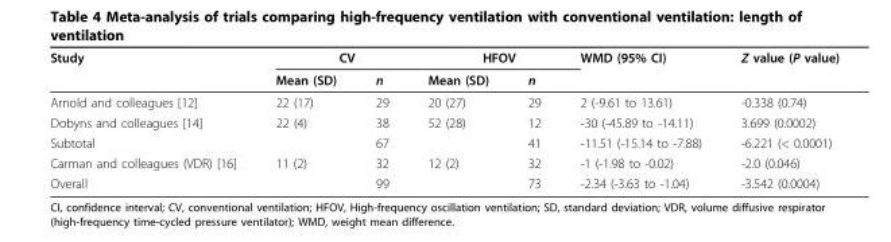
<table><thead><tr><td rowspan="2">Study</td><td colspan="2">CV</td><td colspan="2">HFOV</td><td rowspan="2">WMD (95% CI)</td><td rowspan="2">Z value (P value)</td></tr><tr><td>Mean (SD)</td><td>n</td><td>Mean (SD)</td><td>n</td></tr></thead><tbody><tr><td>Arnold and colleagues [12]</td><td>22 (17)</td><td>29</td><td>20 (27)</td><td>29</td><td>2 (-9.61 to 13.61)</td><td>-0.338 (0.74)</td></tr><tr><td>Dobyns and colleagues [14]</td><td>22 (4)</td><td>38</td><td>52 (28)</td><td>12</td><td>-30 (-45.89 to -14.11)</td><td>3.699 (0.0002)</td></tr><tr><td>Subtotal</td><td></td><td>67</td><td></td><td>41</td><td>-11.51 (-15.14 to -7.88)</td><td>-6.221 (&lt; 0.0001)</td></tr><tr><td>Carman and colleagues (VDR) [16]</td><td>11 (2)</td><td>32</td><td>12 (2)</td><td>32</td><td>-1 (-1.98 to -0.02)</td><td>-2.0 (0.046)</td></tr><tr><td>Overall</td><td></td><td>99</td><td></td><td>73</td><td>-2.34 (-3.63 to -1.04)</td><td>-3.542 (0.0004)</td></tr></tbody></table>